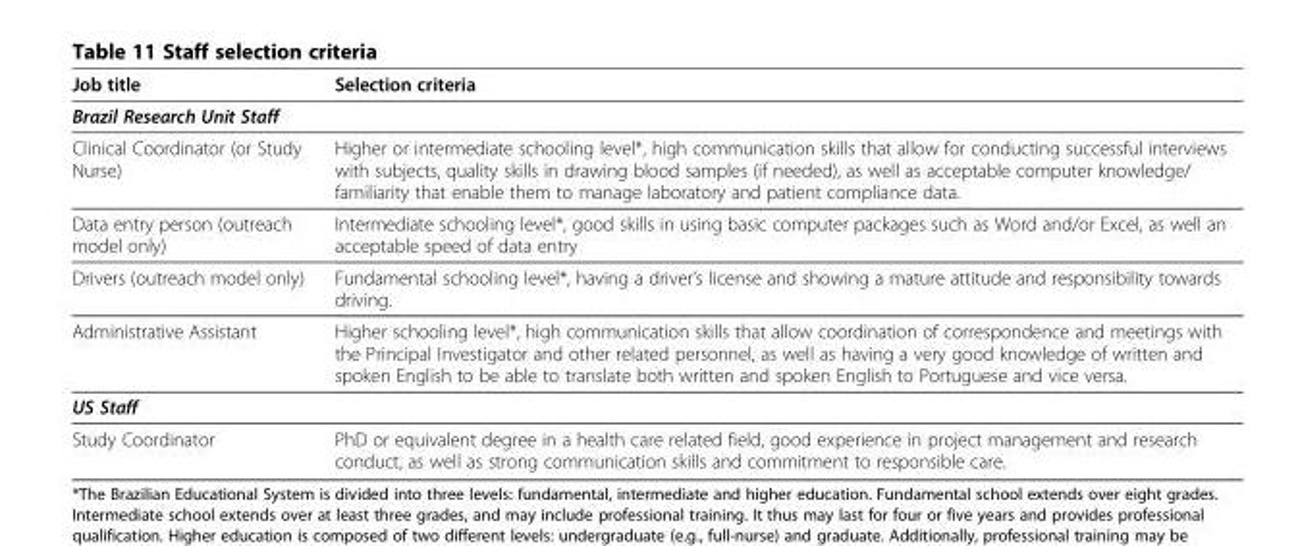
<table><thead><tr><td>Job title</td><td>Selection criteria</td></tr></thead><tbody><tr><td colspan="2">Brazil Research Unit Staff</td></tr><tr><td>Clinical Coordinator (or Study Nurse)</td><td>Higher or intermediate schooling level*, high communication skills that allow for conducting successful interviews with subjects, quality skills in drawing blood samples (if needed), as well as acceptable computer knowledge/ familiarity that enable them to manage laboratory and patient compliance data.</td></tr><tr><td>Data entry person (outreach model only)</td><td>Intermediate schooling level*, good skills in using basic computer packages such as Word and/or Excel, as well an acceptable speed of data entry</td></tr><tr><td>Drivers (outreach model only)</td><td>Fundamental schooling level*, having a driver’s license and showing a mature attitude and responsibility towards driving.</td></tr><tr><td>Administrative Assistant</td><td>Higher schooling level*, high communication skills that allow coordination of correspondence and meetings with the Principal Investigator and other related personnel, as well as having a very good knowledge of written and spoken English to be able to translate both written and spoken English to Portuguese and vice versa.</td></tr><tr><td colspan="2">US Staff</td></tr><tr><td>Study Coordinator</td><td>PhD or equivalent degree in a health care related field, good experience in project management and research conduct, as well as strong communication skills and commitment to responsible care.</td></tr></tbody></table>